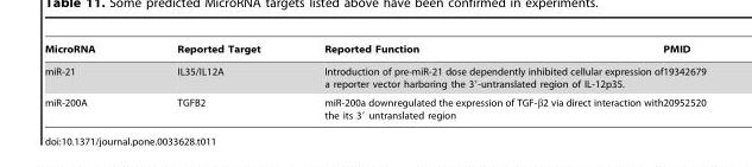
<table><thead><tr><td>MicroRNA</td><td>Reported Target</td><td>Reported Function</td><td>PMID</td></tr></thead><tbody><tr><td>miR-21</td><td>IL35/IL12A</td><td>Introduction of pre-miR-21 dose dependently inhibited cellular expression of a reporter vector harboring the 3′-untranslated region of IL-12p35.</td><td>19342679</td></tr><tr><td>miR-200A</td><td>TGFB2</td><td>miR-200a downregulated the expression of TGF-β2 via direct interaction with the its 3′ untranslated region</td><td>20952520</td></tr></tbody></table>